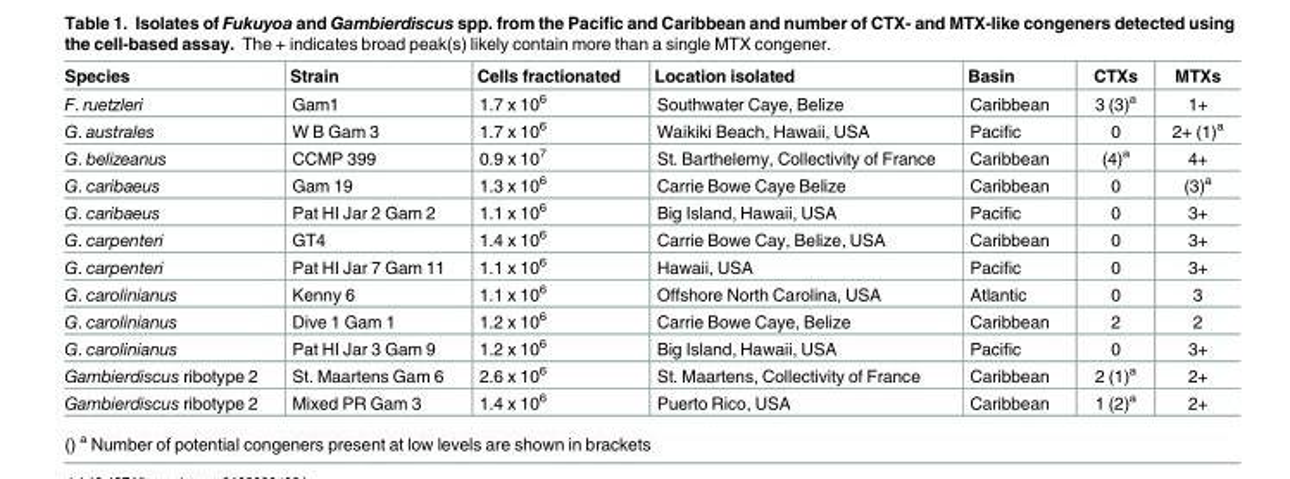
<table><thead><tr><td>Species</td><td>Strain</td><td>Cells fractionated</td><td>Location isolated</td><td>Basin</td><td>CTXs</td><td>MTXs</td></tr></thead><tbody><tr><td>F. ruetzleri</td><td>Gam1</td><td>1.7 x 10<sup>6</sup></td><td>Southwater Caye, Belize</td><td>Caribbean</td><td>3 (3)<sup>a</sup></td><td>1+</td></tr><tr><td>G. australes</td><td>W B Gam 3</td><td>1.7 x 10<sup>6</sup></td><td>Waikiki Beach, Hawaii, USA</td><td>Pacific</td><td>0</td><td>2+ (1)<sup>a</sup></td></tr><tr><td>G. belizeanus</td><td>CCMP 399</td><td>0.9 x 10<sup>7</sup></td><td>St. Barthelemy, Collectivity of France</td><td>Caribbean</td><td>(4)<sup>a</sup></td><td>4+</td></tr><tr><td>G. caribaeus</td><td>Gam 19</td><td>1.3 x 10<sup>6</sup></td><td>Carrie Bowe Caye Belize</td><td>Caribbean</td><td>0</td><td>(3)<sup>a</sup></td></tr><tr><td>G. caribaeus</td><td>Pat HI Jar 2 Gam 2</td><td>1.1 x 10<sup>6</sup></td><td>Big Island, Hawaii, USA</td><td>Pacific</td><td>0</td><td>3+</td></tr><tr><td>G. carpenteri</td><td>GT4</td><td>1.4 x 10<sup>6</sup></td><td>Carrie Bowe Cay, Belize, USA</td><td>Caribbean</td><td>0</td><td>3+</td></tr><tr><td>G. carpenteri</td><td>Pat HI Jar 7 Gam 11</td><td>1.1 x 10<sup>6</sup></td><td>Hawaii, USA</td><td>Pacific</td><td>0</td><td>3+</td></tr><tr><td>G. carolinianus</td><td>Kenny 6</td><td>1.1 x 10<sup>6</sup></td><td>Offshore North Carolina, USA</td><td>Atlantic</td><td>0</td><td>3</td></tr><tr><td>G. carolinianus</td><td>Dive 1 Gam 1</td><td>1.2 x 10<sup>6</sup></td><td>Carrie Bowe Caye, Belize</td><td>Caribbean</td><td>2</td><td>2</td></tr><tr><td>G. carolinianus</td><td>Pat HI Jar 3 Gam 9</td><td>1.2 x 10<sup>6</sup></td><td>Big Island, Hawaii, USA</td><td>Pacific</td><td>0</td><td>3+</td></tr><tr><td>Gambierdiscus ribotype 2</td><td>St. Maartens Gam 6</td><td>2.6 x 10<sup>6</sup></td><td>St. Maartens, Collectivity of France</td><td>Caribbean</td><td>2 (1)<sup>a</sup></td><td>2+</td></tr><tr><td>Gambierdiscus ribotype 2</td><td>Mixed PR Gam 3</td><td>1.4 x 10<sup>6</sup></td><td>Puerto Rico, USA</td><td>Caribbean</td><td>1 (2)<sup>a</sup></td><td>2+</td></tr></tbody></table>